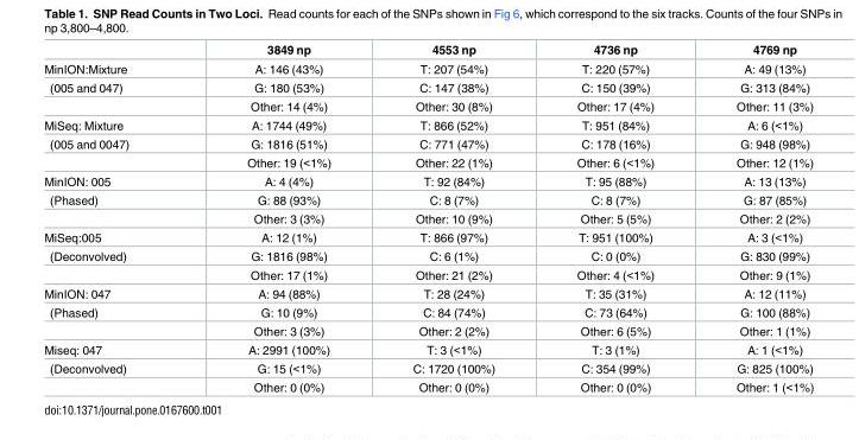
<table><thead><tr><td></td><td>3849 np</td><td>4553 np</td><td>4736 np</td><td>4769 np</td></tr></thead><tbody><tr><td>MinION:Mixture</td><td>A: 146 (43%)</td><td>T: 207 (54%)</td><td>T: 220 (57%)</td><td>A: 49 (13%)</td></tr><tr><td rowspan="2">(005 and 047)</td><td>G: 180 (53%)</td><td>C: 147 (38%)</td><td>C: 150 (39%)</td><td>G: 313 (84%)</td></tr><tr><td>Other: 14 (4%)</td><td>Other: 30 (8%)</td><td>Other: 17 (4%)</td><td>Other: 11 (3%)</td></tr><tr><td>MiSeq: Mixture</td><td>A: 1744 (49%)</td><td>T: 866 (52%)</td><td>T: 951 (84%)</td><td>A: 6 (&lt;1%)</td></tr><tr><td rowspan="2">(005 and 0047)</td><td>G: 1816 (51%)</td><td>C: 771 (47%)</td><td>C: 178 (16%)</td><td>G: 948 (98%)</td></tr><tr><td>Other: 19 (&lt;1%)</td><td>Other: 22 (1%)</td><td>Other: 6 (&lt;1%)</td><td>Other: 12 (1%)</td></tr><tr><td>MinION: 005</td><td>A: 4 (4%)</td><td>T: 92 (84%)</td><td>T: 95 (88%)</td><td>A: 13 (13%)</td></tr><tr><td rowspan="2">(Phased)</td><td>G: 88 (93%)</td><td>C: 8 (7%)</td><td>C: 8 (7%)</td><td>G: 87 (85%)</td></tr><tr><td>Other: 3 (3%)</td><td>Other: 10 (9%)</td><td>Other: 5 (5%)</td><td>Other: 2 (2%)</td></tr><tr><td>MiSeq:005</td><td>A: 12 (1%)</td><td>T: 866 (97%)</td><td>T: 951 (100%)</td><td>A: 3 (&lt;1%)</td></tr><tr><td rowspan="2">(Deconvolved)</td><td>G: 1816 (98%)</td><td>C: 6 (1%)</td><td>C: 0 (0%)</td><td>G: 830 (99%)</td></tr><tr><td>Other: 17 (1%)</td><td>Other: 21 (2%)</td><td>Other: 4 (&lt;1%)</td><td>Other: 9 (1%)</td></tr><tr><td>MinION: 047</td><td>A: 94 (88%)</td><td>T: 28 (24%)</td><td>T: 35 (31%)</td><td>A: 12 (11%)</td></tr><tr><td rowspan="2">(Phased)</td><td>G: 10 (9%)</td><td>C: 84 (74%)</td><td>C: 73 (64%)</td><td>G: 100 (88%)</td></tr><tr><td>Other: 3 (3%)</td><td>Other: 2 (2%)</td><td>Other: 6 (5%)</td><td>Other: 1 (1%)</td></tr><tr><td>Miseq: 047</td><td>A: 2991 (100%)</td><td>T: 3 (&lt;1%)</td><td>T: 3 (1%)</td><td>A: 1 (&lt;1%)</td></tr><tr><td rowspan="2">(Deconvolved)</td><td>G: 15 (&lt;1%)</td><td>C: 1720 (100%)</td><td>C: 354 (99%)</td><td>G: 825 (100%)</td></tr><tr><td>Other: 0 (0%)</td><td>Other: 0 (0%)</td><td>Other: 0 (0%)</td><td>Other: 1 (&lt;1%)</td></tr></tbody></table>